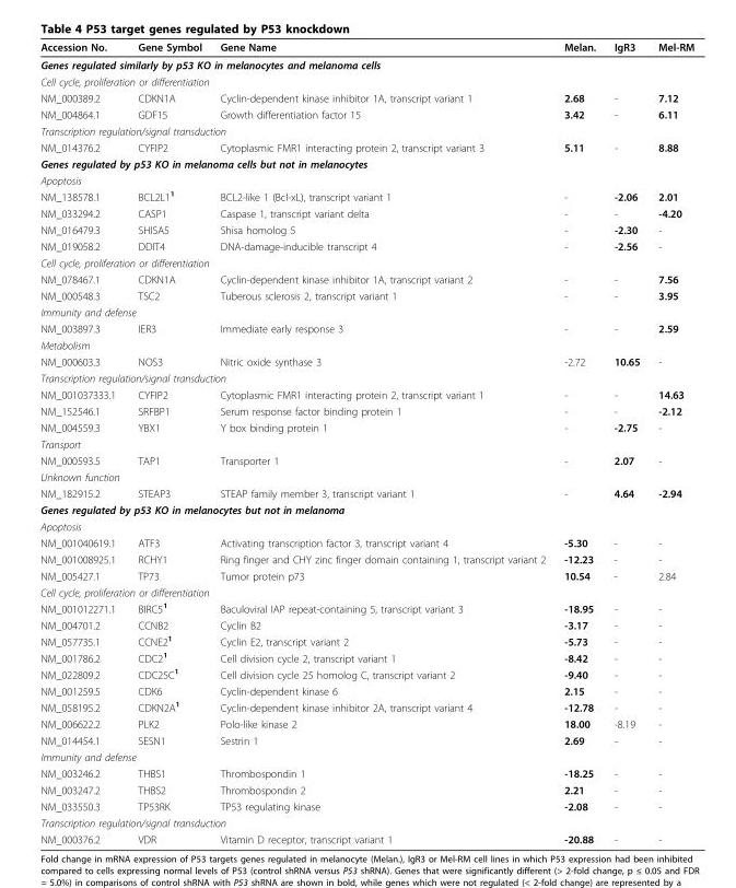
<table><thead><tr><td>Accession No.</td><td>Gene Symbol</td><td>Gene Name</td><td>Melan.</td><td>IgR3</td><td>Mel-RM</td></tr></thead><tbody><tr><td colspan="6">Genes regulated similarly by p53 KO in melanocytes and melanoma cells</td></tr><tr><td colspan="6">Cell cycle, proliferation or differentiation</td></tr><tr><td>NM_000389.2</td><td>CDKN1A</td><td>Cyclin-dependent kinase inhibitor 1A, transcript variant 1</td><td>2.68</td><td>-</td><td>7.12</td></tr><tr><td>NM_004864.1</td><td>GDF15</td><td>Growth differentiation factor 15</td><td>3.42</td><td>-</td><td>6.11</td></tr><tr><td colspan="6">Transcription regulation/signal transduction</td></tr><tr><td>NM_014376.2</td><td>CYFIP2</td><td>Cytoplasmic FMR1 interacting protein 2, transcript variant 3</td><td>5.11</td><td>-</td><td>8.88</td></tr><tr><td colspan="6">Genes regulated by p53 KO in melanoma cells but not in melanocytes</td></tr><tr><td colspan="6">Apoptosis</td></tr><tr><td>NM_138578.1</td><td>BCL2L1<sup>1</sup></td><td>BCL2-like 1 (Bcl-xL), transcript variant 1</td><td>-</td><td>-2.06</td><td>2.01</td></tr><tr><td>NM_033294.2</td><td>CASP1</td><td>Caspase 1, transcript variant delta</td><td>-</td><td>-</td><td>-4.20</td></tr><tr><td>NM_016479.3</td><td>SHISA5</td><td>Shisa homolog 5</td><td>-</td><td>-2.30</td><td>-</td></tr><tr><td>NM_019058.2</td><td>DDIT4</td><td>DNA-damage-inducible transcript 4</td><td>-</td><td>-2.56</td><td>-</td></tr><tr><td colspan="6">Cell cycle, proliferation or differentiation</td></tr><tr><td>NM_078467.1</td><td>CDKN1A</td><td>Cyclin-dependent kinase inhibitor 1A, transcript variant 2</td><td>-</td><td>-</td><td>7.56</td></tr><tr><td>NM_000548.3</td><td>TSC2</td><td>Tuberous sclerosis 2, transcript variant 1</td><td>-</td><td>-</td><td>3.95</td></tr><tr><td colspan="6">Immunity and defense</td></tr><tr><td>NM_003897.3</td><td>IER3</td><td>Immediate early response 3</td><td>-</td><td>-</td><td>2.59</td></tr><tr><td colspan="6">Metabolism</td></tr><tr><td>NM_000603.3</td><td>NOS3</td><td>Nitric oxide synthase 3</td><td>-2.72</td><td>10.65</td><td>-</td></tr><tr><td colspan="6">Transcription regulation/signal transduction</td></tr><tr><td>NM_001037333.1</td><td>CYFIP2</td><td>Cytoplasmic FMR1 interacting protein 2, transcript variant 1</td><td>-</td><td>-</td><td>14.63</td></tr><tr><td>NM_152546.1</td><td>SRFBP1</td><td>Serum response factor binding protein 1</td><td>-</td><td>-</td><td>-2.12</td></tr><tr><td>NM_004559.3</td><td>YBX1</td><td>Y box binding protein 1</td><td>-</td><td>-2.75</td><td>-</td></tr><tr><td colspan="6">Transport</td></tr><tr><td>NM_000593.5</td><td>TAP1</td><td>Transporter 1</td><td>-</td><td>2.07</td><td>-</td></tr><tr><td colspan="6">Unknown function</td></tr><tr><td>NM_182915.2</td><td>STEAP3</td><td>STEAP family member 3, transcript variant 1</td><td>-</td><td>4.64</td><td>-2.94</td></tr><tr><td colspan="6">Genes regulated by p53 KO in melanocytes but not in melanoma</td></tr><tr><td colspan="6">Apoptosis</td></tr><tr><td>NM_001040619.1</td><td>ATF3</td><td>Activating transcription factor 3, transcript variant 4</td><td>-5.30</td><td>-</td><td>-</td></tr><tr><td>NM_001008925.1</td><td>RCHY1</td><td>Ring finger and CHY zinc finger domain containing 1, transcript variant 2</td><td>-12.23</td><td>-</td><td>-</td></tr><tr><td>NM_005427.1</td><td>TP73</td><td>Tumor protein p73</td><td>10.54</td><td>-</td><td>2.84</td></tr><tr><td colspan="6">Cell cycle, proliferation or differentiation</td></tr><tr><td>NM_001012271.1</td><td>BIRC5<sup>1</sup></td><td>Baculoviral IAP repeat-containing 5, transcript variant 3</td><td>-18.95</td><td>-</td><td>-</td></tr><tr><td>NM_004701.2</td><td>CCNB2</td><td>Cyclin B2</td><td>-3.17</td><td>-</td><td>-</td></tr><tr><td>NM_057735.1</td><td>CCNE2<sup>1</sup></td><td>Cyclin E2, transcript variant 2</td><td>-5.73</td><td>-</td><td>-</td></tr><tr><td>NM_001786.2</td><td>CDC2<sup>1</sup></td><td>Cell division cycle 2, transcript variant 1</td><td>-8.42</td><td>-</td><td>-</td></tr><tr><td>NM_022809.2</td><td>CDC25C<sup>1</sup></td><td>Cell division cycle 25 homolog C, transcript variant 2</td><td>-9.40</td><td>-</td><td>-</td></tr><tr><td>NM_001259.5</td><td>CDK6</td><td>Cyclin-dependent kinase 6</td><td>2.15</td><td>-</td><td>-</td></tr><tr><td>NM_058195.2</td><td>CDKN2A<sup>1</sup></td><td>Cyclin-dependent kinase inhibitor 2A, transcript variant 4</td><td>-12.78</td><td>-</td><td>-</td></tr><tr><td>NM_006622.2</td><td>PLK2</td><td>Polo-like kinase 2</td><td>18.00</td><td>-8.19</td><td>-</td></tr><tr><td>NM_014454.1</td><td>SESN1</td><td>Sestrin 1</td><td>2.69</td><td>-</td><td>-</td></tr><tr><td colspan="6">Immunity and defense</td></tr><tr><td>NM_003246.2</td><td>THBS1</td><td>Thrombospondin 1</td><td>-18.25</td><td>-</td><td>-</td></tr><tr><td>NM_003247.2</td><td>THBS2</td><td>Thrombospondin 2</td><td>2.21</td><td>-</td><td>-</td></tr><tr><td>NM_033550.3</td><td>TP53RK</td><td>TP53 regulating kinase</td><td>-2.08</td><td>-</td><td>-</td></tr><tr><td colspan="6">Transcription regulation/signal transduction</td></tr><tr><td>NM_000376.2</td><td>VDR</td><td>Vitamin D receptor, transcript variant 1</td><td>-20.88</td><td>-</td><td>-</td></tr></tbody></table>